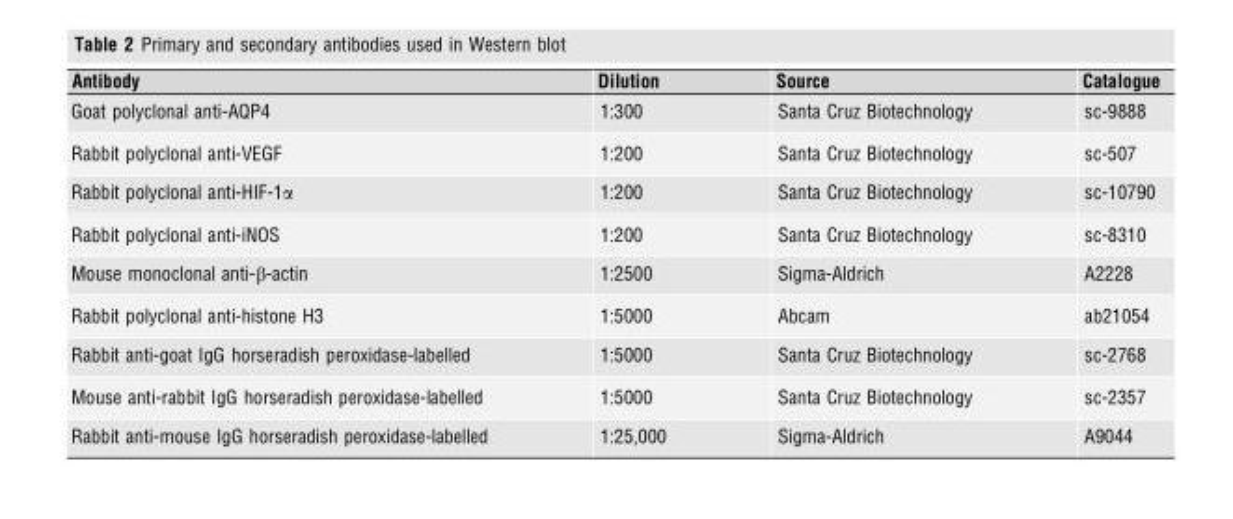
<table><thead><tr><td>Antibody</td><td>Dilution</td><td>Source</td><td>Catalogue</td></tr></thead><tbody><tr><td>Goat polyclonal anti-AQP4</td><td>1:300</td><td>Santa Cruz Biotechnology</td><td>sc-9888</td></tr><tr><td>Rabbit polyclonal anti-VEGF</td><td>1:200</td><td>Santa Cruz Biotechnology</td><td>sc-507</td></tr><tr><td>Rabbit polyclonal anti-HIF-1α</td><td>1:200</td><td>Santa Cruz Biotechnology</td><td>sc-10790</td></tr><tr><td>Rabbit polyclonal anti-iNOS</td><td>1:200</td><td>Santa Cruz Biotechnology</td><td>sc-8310</td></tr><tr><td>Mouse monoclonal anti-β-actin</td><td>1:2500</td><td>Sigma-Aldrich</td><td>A2228</td></tr><tr><td>Rabbit polyclonal anti-histone H3</td><td>1:5000</td><td>Abcam</td><td>ab21054</td></tr><tr><td>Rabbit anti-goat IgG horseradish peroxidase-labelled</td><td>1:5000</td><td>Santa Cruz Biotechnology</td><td>sc-2768</td></tr><tr><td>Mouse anti-rabbit IgG horseradish peroxidase-labelled</td><td>1:5000</td><td>Santa Cruz Biotechnology</td><td>sc-2357</td></tr><tr><td>Rabbit anti-mouse IgG horseradish peroxidase-labelled</td><td>1:25,000</td><td>Sigma-Aldrich</td><td>A9044</td></tr></tbody></table>